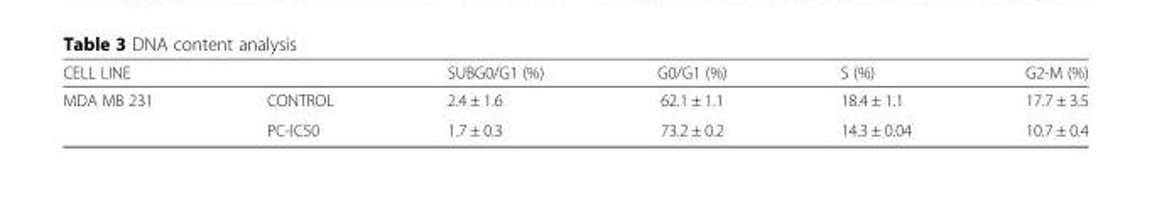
<table><thead><tr><td>CELL LINE</td><td></td><td>SUBG0/G1 (%)</td><td>G0/G1 (%)</td><td>S (%)</td><td>G2-M (%)</td></tr></thead><tbody><tr><td rowspan="2">MDA MB 231</td><td>CONTROL</td><td>2.4 ± 1.6</td><td>62.1 ± 1.1</td><td>18.4 ± 1.1</td><td>17.7 ± 3.5</td></tr><tr><td>PC-IC50</td><td>1.7 ± 0.3</td><td>73.2 ± 0.2</td><td>14.3 ± 0.04</td><td>10.7 ± 0.4</td></tr></tbody></table>